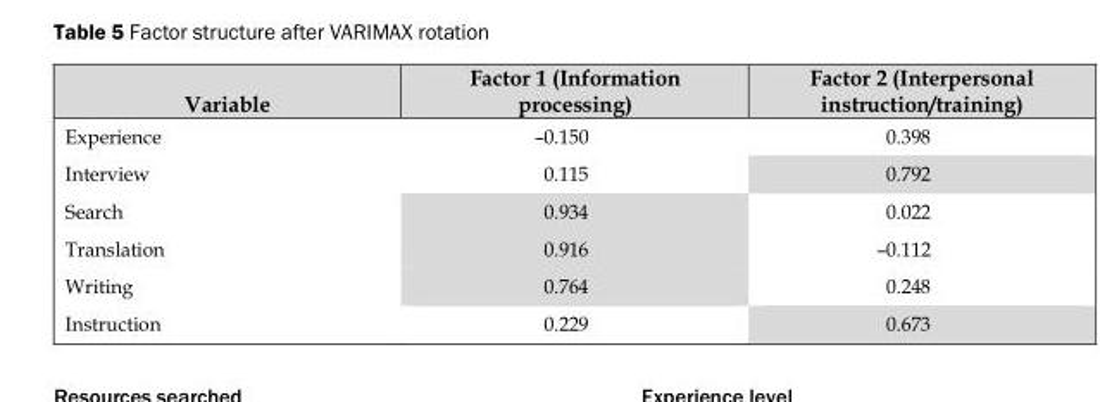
<table><thead><tr><td>Variable</td><td>Factor 1 (Information processing)</td><td>Factor 2 (Interpersonal instruction/training)</td></tr></thead><tbody><tr><td>Experience</td><td>–0.150</td><td>0.398</td></tr><tr><td>Interview</td><td>0.115</td><td>0.792</td></tr><tr><td>Search</td><td>0.934</td><td>0.022</td></tr><tr><td>Translation</td><td>0.916</td><td>–0.112</td></tr><tr><td>Writing</td><td>0.764</td><td>0.248</td></tr><tr><td>Instruction</td><td>0.229</td><td>0.673</td></tr></tbody></table>